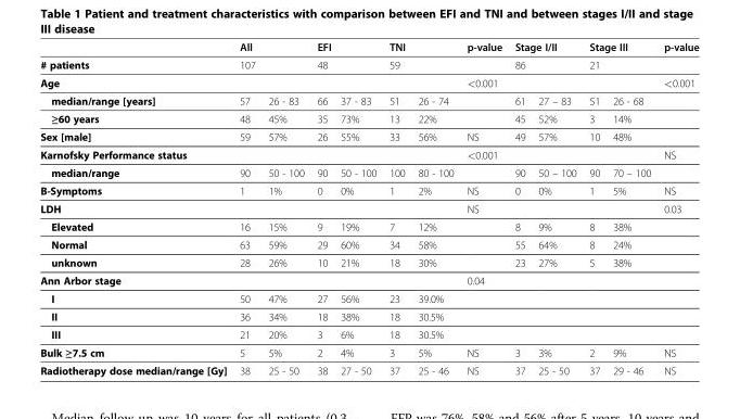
<table><thead><tr><td rowspan="3"># patients Age</td><td colspan="2">All</td><td colspan="2">EFI</td><td colspan="2">TNI</td><td rowspan="3">p-value &lt;0.001</td><td rowspan="2" colspan="2">Stage I/II 86</td><td rowspan="2" colspan="2">Stage III 21</td><td rowspan="3">p-value &lt;0.001</td></tr><tr><td rowspan="2">107</td><td rowspan="2"></td><td rowspan="2">48</td><td rowspan="2"></td><td rowspan="2">59</td><td rowspan="2"></td></tr><tr><td></td><td></td><td></td><td></td></tr></thead><tbody><tr><td>median/range [years]</td><td>57</td><td>26 - 83</td><td>66</td><td>37 - 83</td><td>51</td><td>26 - 74</td><td></td><td>61</td><td>27 – 83</td><td>51</td><td>26 - 68</td><td></td></tr><tr><td>≥60 years</td><td>48</td><td>45%</td><td>35</td><td>73%</td><td>13</td><td>22%</td><td></td><td>45</td><td>52%</td><td>3</td><td>14%</td><td></td></tr><tr><td>Sex [male]</td><td>59</td><td>57%</td><td>26</td><td>55%</td><td>33</td><td>56%</td><td>NS</td><td>49</td><td>57%</td><td>10</td><td>48%</td><td></td></tr><tr><td>Karnofsky Performance status</td><td></td><td></td><td></td><td></td><td></td><td></td><td>&lt;0.001</td><td></td><td></td><td></td><td></td><td>NS</td></tr><tr><td>median/range</td><td>90</td><td>50 - 100</td><td>90</td><td>50 - 100</td><td>100</td><td>80 - 100</td><td></td><td>90</td><td>50 – 100</td><td>90</td><td>70 – 100</td><td></td></tr><tr><td>B-Symptoms</td><td>1</td><td>1%</td><td>0</td><td>0%</td><td>1</td><td>2%</td><td>NS</td><td>0</td><td>0%</td><td>1</td><td>5%</td><td>NS</td></tr><tr><td>LDH</td><td></td><td></td><td></td><td></td><td></td><td></td><td>NS</td><td></td><td></td><td></td><td></td><td>0.03</td></tr><tr><td>Elevated</td><td>16</td><td>15%</td><td>9</td><td>19%</td><td>7</td><td>12%</td><td></td><td>8</td><td>9%</td><td>8</td><td>38%</td><td></td></tr><tr><td>Normal</td><td>63</td><td>59%</td><td>29</td><td>60%</td><td>34</td><td>58%</td><td></td><td>55</td><td>64%</td><td>8</td><td>24%</td><td></td></tr><tr><td>unknown</td><td>28</td><td>26%</td><td>10</td><td>21%</td><td>18</td><td>30%</td><td></td><td>23</td><td>27%</td><td>5</td><td>38%</td><td></td></tr><tr><td>Ann Arbor stage</td><td></td><td></td><td></td><td></td><td></td><td></td><td>0.04</td><td></td><td></td><td></td><td></td><td></td></tr><tr><td>I</td><td>50</td><td>47%</td><td>27</td><td>56%</td><td>23</td><td>39.0%</td><td></td><td></td><td></td><td></td><td></td><td></td></tr><tr><td>II</td><td>36</td><td>34%</td><td>18</td><td>38%</td><td>18</td><td>30.5%</td><td></td><td></td><td></td><td></td><td></td><td></td></tr><tr><td>III</td><td>21</td><td>20%</td><td>3</td><td>6%</td><td>18</td><td>30.5%</td><td></td><td></td><td></td><td></td><td></td><td></td></tr><tr><td>Bulk ≥7.5 cm</td><td>5</td><td>5%</td><td>2</td><td>4%</td><td>3</td><td>5%</td><td>NS</td><td>3</td><td>3%</td><td>2</td><td>9%</td><td>NS</td></tr><tr><td>Radiotherapy dose median/range [Gy]</td><td>38</td><td>25 - 50</td><td>38</td><td>27 - 50</td><td>37</td><td>25 - 46</td><td>NS</td><td>37</td><td>25 - 50</td><td>37</td><td>29 - 46</td><td>NS</td></tr></tbody></table>